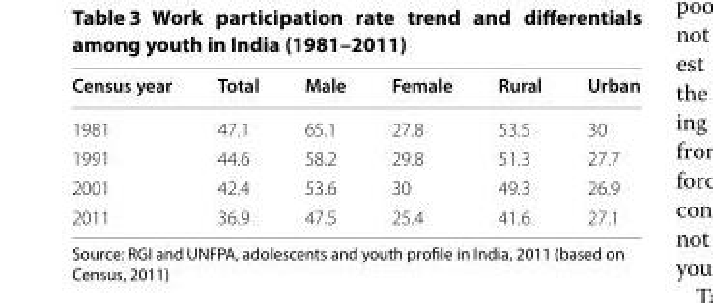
<table><thead><tr><td>Census year</td><td>Total</td><td>Male</td><td>Female</td><td>Rural</td><td>Urban</td></tr></thead><tbody><tr><td>1981</td><td>47.1</td><td>65.1</td><td>27.8</td><td>53.5</td><td>30</td></tr><tr><td>1991</td><td>44.6</td><td>58.2</td><td>29.8</td><td>51.3</td><td>27.7</td></tr><tr><td>2001</td><td>42.4</td><td>53.6</td><td>30</td><td>49.3</td><td>26.9</td></tr><tr><td>2011</td><td>36.9</td><td>47.5</td><td>25.4</td><td>41.6</td><td>27.1</td></tr></tbody></table>